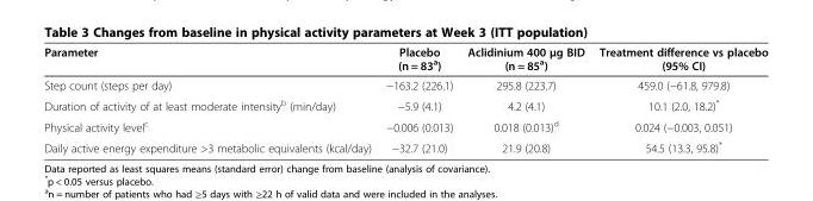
<table><thead><tr><td>Parameter</td><td>Placebo (n = 83<sup>a</sup>)</td><td>Aclidinium 400 μg BID (n = 85<sup>a</sup>)</td><td>Treatment difference vs placebo (95% CI)</td></tr></thead><tbody><tr><td>Step count (steps per day)</td><td>−163.2 (226.1)</td><td>295.8 (223.7)</td><td>459.0 (−61.8, 979.8)</td></tr><tr><td>Duration of activity of at least moderate intensity<sup>b</sup> (min/day)</td><td>−5.9 (4.1)</td><td>4.2 (4.1)</td><td>10.1 (2.0, 18.2)*</td></tr><tr><td>Physical activity level<sup>c</sup></td><td>−0.006 (0.013)</td><td>0.018 (0.013)<sup>d</sup></td><td>0.024 (−0.003, 0.051)</td></tr><tr><td>Daily active energy expenditure &gt;3 metabolic equivalents (kcal/day)</td><td>−32.7 (21.0)</td><td>21.9 (20.8)</td><td>54.5 (13.3, 95.8)*</td></tr></tbody></table>